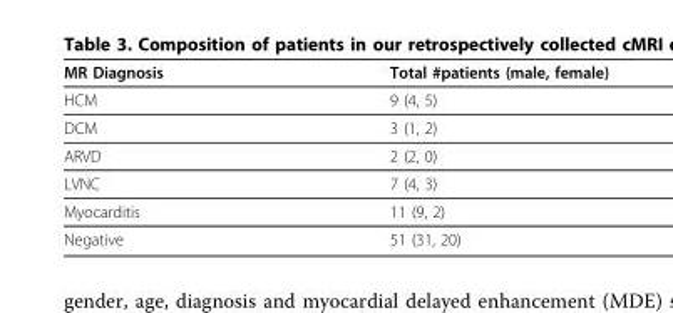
<table><thead><tr><td>MR Diagnosis</td><td>Total #patients (male, female)</td></tr></thead><tbody><tr><td>HCM</td><td>9 (4, 5)</td></tr><tr><td>DCM</td><td>3 (1, 2)</td></tr><tr><td>ARVD</td><td>2 (2, 0)</td></tr><tr><td>LVNC</td><td>7 (4, 3)</td></tr><tr><td>Myocarditis</td><td>11 (9, 2)</td></tr><tr><td>Negative</td><td>51 (31, 20)</td></tr></tbody></table>